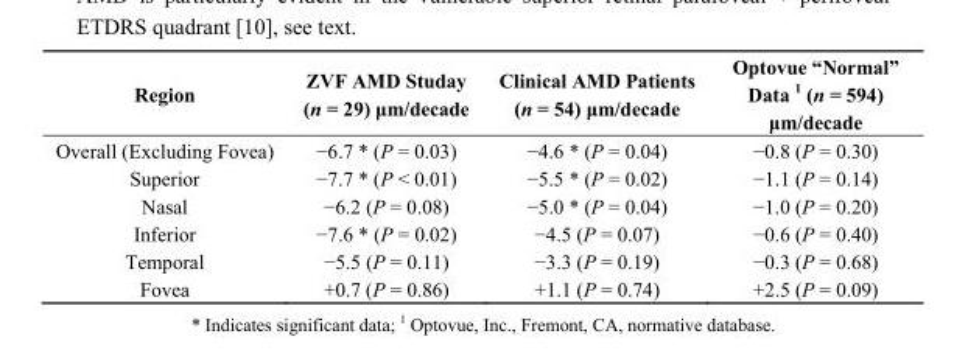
<table><thead><tr><td>Region</td><td>ZVF AMD Studay (n = 29) μm/decade</td><td>Clinical AMD Patients (n = 54) μm/decade</td><td>Optovue “Normal” Data <sup>1</sup> (n = 594) μm/decade</td></tr></thead><tbody><tr><td>Overall (Excluding Fovea)</td><td>−6.7 * (P = 0.03)</td><td>−4.6 * (P = 0.04)</td><td>−0.8 (P = 0.30)</td></tr><tr><td>Superior</td><td>−7.7 * (P &lt; 0.01)</td><td>−5.5 * (P = 0.02)</td><td>−1.1 (P = 0.14)</td></tr><tr><td>Nasal</td><td>−6.2 (P = 0.08)</td><td>−5.0 * (P = 0.04)</td><td>−1.0 (P = 0.20)</td></tr><tr><td>Inferior</td><td>−7.6 * (P = 0.02)</td><td>−4.5 (P = 0.07)</td><td>−0.6 (P = 0.40)</td></tr><tr><td>Temporal</td><td>−5.5 (P = 0.11)</td><td>−3.3 (P = 0.19)</td><td>−0.3 (P = 0.68)</td></tr><tr><td>Fovea</td><td>+0.7 (P = 0.86)</td><td>+1.1 (P = 0.74)</td><td>+2.5 (P = 0.09)</td></tr></tbody></table>